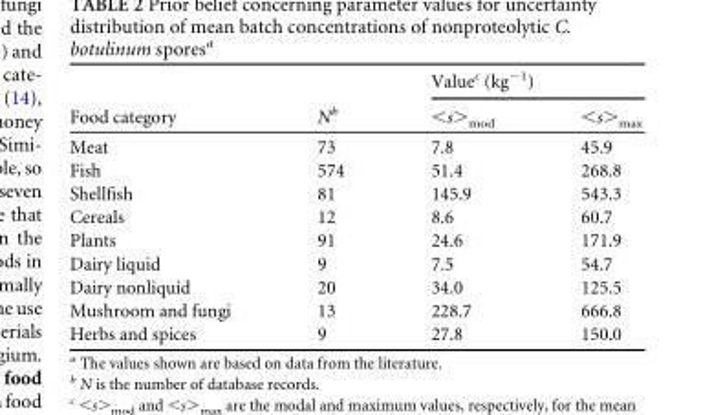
<table><thead><tr><td rowspan="2">Food category</td><td rowspan="2">N<sup>b</sup></td><td colspan="2">Value<sup>c</sup> (kg<sup>−1</sup>)</td></tr><tr><td>&lt;s&gt;<sub>mod</sub></td><td>&lt;s&gt;<sub>max</sub></td></tr></thead><tbody><tr><td>Meat</td><td>73</td><td>7.8</td><td>45.9</td></tr><tr><td>Fish</td><td>574</td><td>51.4</td><td>268.8</td></tr><tr><td>Shellfish</td><td>81</td><td>145.9</td><td>543.3</td></tr><tr><td>Cereals</td><td>12</td><td>8.6</td><td>60.7</td></tr><tr><td>Plants</td><td>91</td><td>24.6</td><td>171.9</td></tr><tr><td>Dairy liquid</td><td>9</td><td>7.5</td><td>54.7</td></tr><tr><td>Dairy nonliquid</td><td>20</td><td>34.0</td><td>125.5</td></tr><tr><td>Mushroom and fungi</td><td>13</td><td>228.7</td><td>666.8</td></tr><tr><td>Herbs and spices</td><td>9</td><td>27.8</td><td>150.0</td></tr></tbody></table>